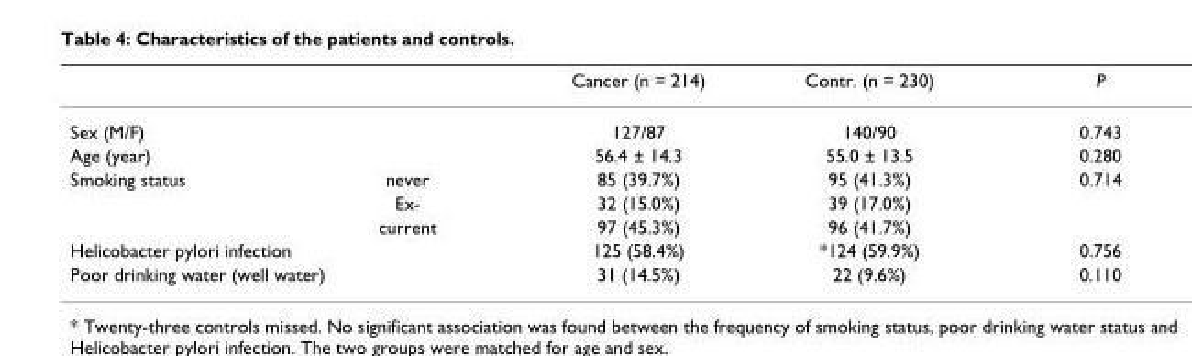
<table><thead><tr><td></td><td></td><td>Cancer (n = 214)</td><td>Contr. (n = 230)</td><td>P</td></tr></thead><tbody><tr><td colspan="2">Sex (M/F)</td><td>127/87</td><td>140/90</td><td>0.743</td></tr><tr><td colspan="2">Age (year)</td><td>56.4 ± 14.3</td><td>55.0 ± 13.5</td><td>0.280</td></tr><tr><td rowspan="3">Smoking status</td><td>never</td><td>85 (39.7%)</td><td>95 (41.3%)</td><td>0.714</td></tr><tr><td>Ex-</td><td>32 (15.0%)</td><td>39 (17.0%)</td><td></td></tr><tr><td>current</td><td>97 (45.3%)</td><td>96 (41.7%)</td><td></td></tr><tr><td colspan="2">Helicobacter pylori infection</td><td>125 (58.4%)</td><td>*124 (59.9%)</td><td>0.756</td></tr><tr><td colspan="2">Poor drinking water (well water)</td><td>31 (14.5%)</td><td>22 (9.6%)</td><td>0.110</td></tr></tbody></table>